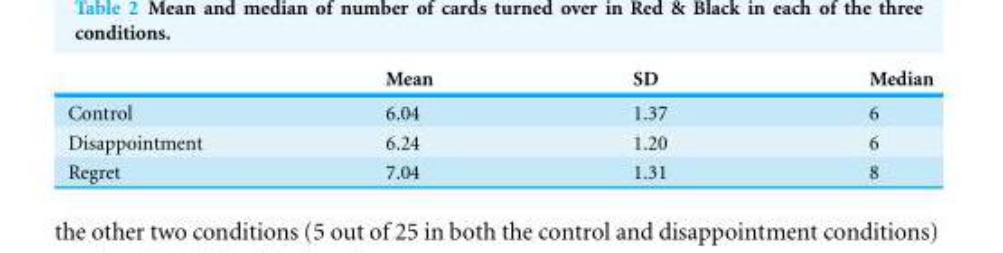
<table><thead><tr><td></td><td>Mean</td><td>SD</td><td>Median</td></tr></thead><tbody><tr><td>Control</td><td>6.04</td><td>1.37</td><td>6</td></tr><tr><td>Disappointment</td><td>6.24</td><td>1.20</td><td>6</td></tr><tr><td>Regret</td><td>7.04</td><td>1.31</td><td>8</td></tr></tbody></table>